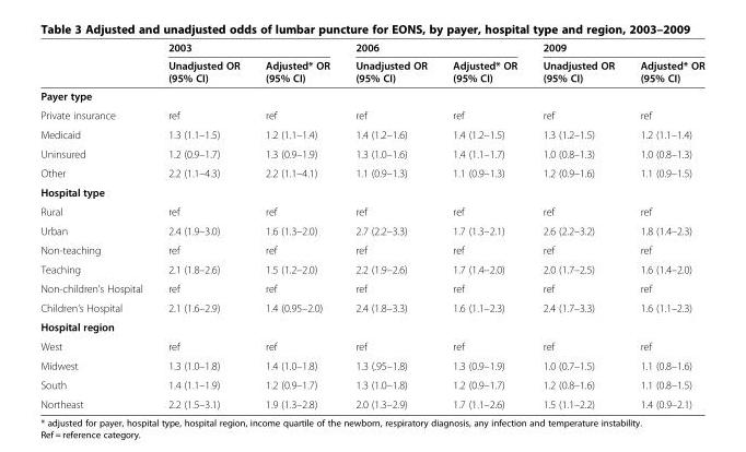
<table><thead><tr><td rowspan="2"></td><td rowspan="2">2003 Unadjusted OR (95% CI)</td><td rowspan="2">Adjusted* OR (95% CI)</td><td rowspan="2">2006 Unadjusted OR (95% CI)</td><td rowspan="2">Adjusted* OR (95% CI)</td><td rowspan="2">2009 Unadjusted OR (95% CI)</td><td rowspan="2">Adjusted* OR (95% CI)</td></tr><tr></tr></thead><tbody><tr><td colspan="7">Payer type</td></tr><tr><td>Private insurance</td><td>ref</td><td>ref</td><td>ref</td><td>ref</td><td>ref</td><td>ref</td></tr><tr><td>Medicaid</td><td>1.3 (1.1–1.5)</td><td>1.2 (1.1–1.4)</td><td>1.4 (1.2–1.6)</td><td>1.4 (1.2–1.5)</td><td>1.3 (1.2–1.5)</td><td>1.2 (1.1–1.4)</td></tr><tr><td>Uninsured</td><td>1.2 (0.9–1.7)</td><td>1.3 (0.9–1.9)</td><td>1.3 (1.0–1.6)</td><td>1.4 (1.1–1.7)</td><td>1.0 (0.8–1.3)</td><td>1.0 (0.8–1.3)</td></tr><tr><td>Other</td><td>2.2 (1.1–4.3)</td><td>2.2 (1.1–4.1)</td><td>1.1 (0.9–1.3)</td><td>1.1 (0.9–1.3)</td><td>1.2 (0.9–1.6)</td><td>1.1 (0.9–1.5)</td></tr><tr><td colspan="7">Hospital type</td></tr><tr><td>Rural</td><td>ref</td><td>ref</td><td>ref</td><td>ref</td><td>ref</td><td>ref</td></tr><tr><td>Urban</td><td>2.4 (1.9–3.0)</td><td>1.6 (1.3–2.0)</td><td>2.7 (2.2–3.3)</td><td>1.7 (1.3–2.1)</td><td>2.6 (2.2–3.2)</td><td>1.8 (1.4–2.3)</td></tr><tr><td>Non-teaching</td><td>ref</td><td>ref</td><td>ref</td><td>ref</td><td>ref</td><td>ref</td></tr><tr><td>Teaching</td><td>2.1 (1.8–2.6)</td><td>1.5 (1.2–2.0)</td><td>2.2 (1.9–2.6)</td><td>1.7 (1.4–2.0)</td><td>2.0 (1.7–2.5)</td><td>1.6 (1.4–2.0)</td></tr><tr><td>Non-children’s Hospital</td><td>ref</td><td>ref</td><td>ref</td><td>ref</td><td>ref</td><td>ref</td></tr><tr><td>Children’s Hospital</td><td>2.1 (1.6–2.9)</td><td>1.4 (0.95–2.0)</td><td>2.4 (1.8–3.3)</td><td>1.6 (1.1–2.3)</td><td>2.4 (1.7–3.3)</td><td>1.6 (1.1–2.3)</td></tr><tr><td colspan="7">Hospital region</td></tr><tr><td>West</td><td>ref</td><td>ref</td><td>ref</td><td>ref</td><td>ref</td><td>ref</td></tr><tr><td>Midwest</td><td>1.3 (1.0–1.8)</td><td>1.4 (1.0–1.8)</td><td>1.3 (.95–1.8)</td><td>1.3 (0.9–1.9)</td><td>1.0 (0.7–1.5)</td><td>1.1 (0.8–1.6)</td></tr><tr><td>South</td><td>1.4 (1.1–1.9)</td><td>1.2 (0.9–1.7)</td><td>1.3 (1.0–1.8)</td><td>1.2 (0.9–1.7)</td><td>1.2 (0.8–1.6)</td><td>1.1 (0.8–1.5)</td></tr><tr><td>Northeast</td><td>2.2 (1.5–3.1)</td><td>1.9 (1.3–2.8)</td><td>2.0 (1.3–2.9)</td><td>1.7 (1.1–2.6)</td><td>1.5 (1.1–2.2)</td><td>1.4 (0.9–2.1)</td></tr></tbody></table>